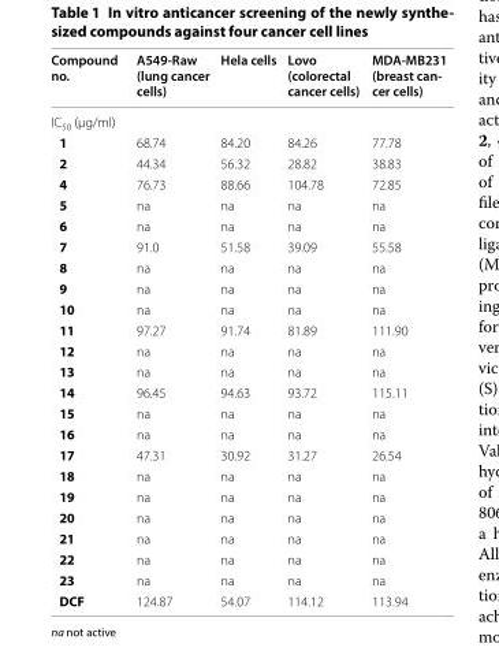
<table><thead><tr><td>Compound no.</td><td>A549-Raw (lung cancer cells)</td><td>Hela cells</td><td>Lovo (colorectal cancer cells)</td><td>MDA-MB231 (breast can- cer cells)</td></tr></thead><tbody><tr><td colspan="5">IC<sub>50</sub> (µg/ml)</td></tr><tr><td>1</td><td>68.74</td><td>84.20</td><td>84.26</td><td>77.78</td></tr><tr><td>2</td><td>44.34</td><td>56.32</td><td>28.82</td><td>38.83</td></tr><tr><td>4</td><td>76.73</td><td>88.66</td><td>104.78</td><td>72.85</td></tr><tr><td>5</td><td>na</td><td>na</td><td>na</td><td>na</td></tr><tr><td>6</td><td>na</td><td>na</td><td>na</td><td>na</td></tr><tr><td>7</td><td>91.0</td><td>51.58</td><td>39.09</td><td>55.58</td></tr><tr><td>8</td><td>na</td><td>na</td><td>na</td><td>na</td></tr><tr><td>9</td><td>na</td><td>na</td><td>na</td><td>na</td></tr><tr><td>10</td><td>na</td><td>na</td><td>na</td><td>na</td></tr><tr><td>11</td><td>97.27</td><td>91.74</td><td>81.89</td><td>111.90</td></tr><tr><td>12</td><td>na</td><td>na</td><td>na</td><td>na</td></tr><tr><td>13</td><td>na</td><td>na</td><td>na</td><td>na</td></tr><tr><td>14</td><td>96.45</td><td>94.63</td><td>93.72</td><td>115.11</td></tr><tr><td>15</td><td>na</td><td>na</td><td>na</td><td>na</td></tr><tr><td>16</td><td>na</td><td>na</td><td>na</td><td>na</td></tr><tr><td>17</td><td>47.31</td><td>30.92</td><td>31.27</td><td>26.54</td></tr><tr><td>18</td><td>na</td><td>na</td><td>na</td><td>na</td></tr><tr><td>19</td><td>na</td><td>na</td><td>na</td><td>na</td></tr><tr><td>20</td><td>na</td><td>na</td><td>na</td><td>na</td></tr><tr><td>21</td><td>na</td><td>na</td><td>na</td><td>na</td></tr><tr><td>22</td><td>na</td><td>na</td><td>na</td><td>na</td></tr><tr><td>23</td><td>na</td><td>na</td><td>na</td><td>na</td></tr><tr><td>DCF</td><td>124.87</td><td>54.07</td><td>114.12</td><td>113.94</td></tr></tbody></table>